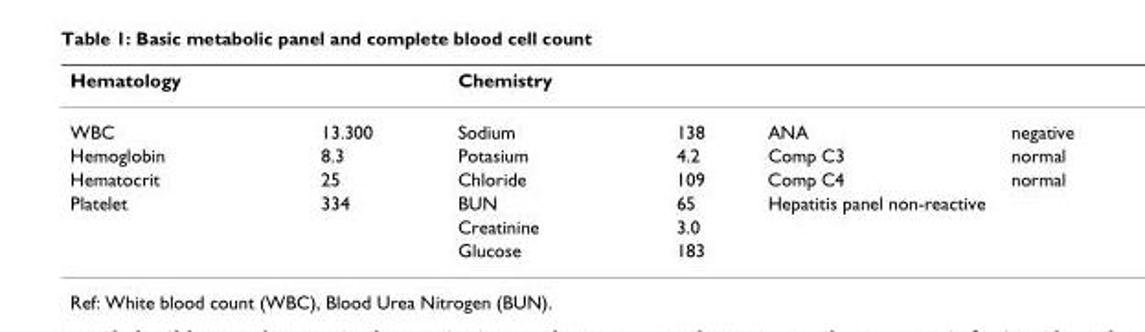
<table><thead><tr><td>Hematology</td><td></td><td>Chemistry</td><td></td><td></td><td></td></tr></thead><tbody><tr><td>WBC</td><td>13.300</td><td>Sodium</td><td>138</td><td>ANA</td><td>negative</td></tr><tr><td>Hemoglobin</td><td>8.3</td><td>Potasium</td><td>4.2</td><td>Comp C3</td><td>normal</td></tr><tr><td>Hematocrit</td><td>25</td><td>Chloride</td><td>109</td><td>Comp C4</td><td>normal</td></tr><tr><td rowspan="3">Platelet</td><td>334</td><td>BUN</td><td>65</td><td colspan="2">Hepatitis panel non-reactive</td></tr><tr><td></td><td>Creatinine</td><td>3.0</td><td></td><td></td></tr><tr><td></td><td>Glucose</td><td>183</td><td></td><td></td></tr></tbody></table>